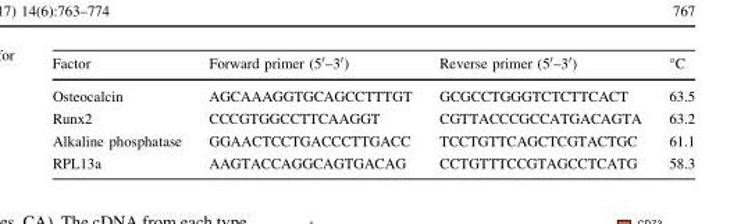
<table><thead><tr><td>Factor</td><td>Forward primer (5′–3′)</td><td>Reverse primer (5′–3′)</td><td>°C</td></tr></thead><tbody><tr><td>Osteocalcin</td><td>AGCAAAGGTGCAGCCTTTGT</td><td>GCGCCTGGGTCTCTTCACT</td><td>63.5</td></tr><tr><td>Runx2</td><td>CCCGTGGCCTTCAAGGT</td><td>CGTTACCCGCCATGACAGTA</td><td>63.2</td></tr><tr><td>Alkaline phosphatase</td><td>GGAACTCCTGACCCTTGACC</td><td>TCCTGTTCAGCTCGTACTGC</td><td>61.1</td></tr><tr><td>RPL13a</td><td>AAGTACCAGGCAGTGACAG</td><td>CCTGTTTCCGTAGCCTCATG</td><td>58.3</td></tr></tbody></table>